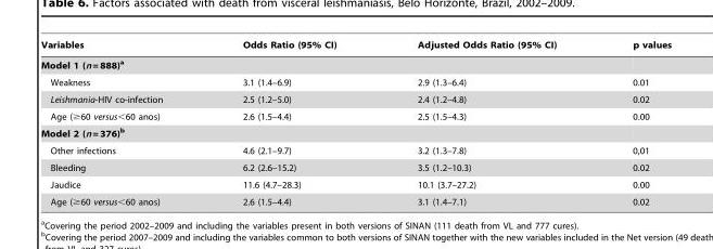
<table><thead><tr><td>Variables</td><td>Odds Ratio (95% CI)</td><td>Adjusted Odds Ratio (95% CI)</td><td>p values</td></tr></thead><tbody><tr><td colspan="4">Model 1 (n = 888)a</td></tr><tr><td>Weakness</td><td>3.1 (1.4–6.9)</td><td>2.9 (1.3–6.4)</td><td>0.01</td></tr><tr><td>Leishmania-HIV co-infection</td><td>2.5 (1.2–5.0)</td><td>2.4 (1.2–4.8)</td><td>0.02</td></tr><tr><td>Age (≥60 versus&lt;60 anos)</td><td>2.6 (1.5–4.4)</td><td>2.5 (1.5–4.3)</td><td>0.00</td></tr><tr><td colspan="4">Model 2 (n = 376)b</td></tr><tr><td>Other infections</td><td>4.6 (2.1–9.7)</td><td>3.2 (1.3–7.8)</td><td>0,01</td></tr><tr><td>Bleeding</td><td>6.2 (2.6–15.2)</td><td>3.5 (1.2–10.3)</td><td>0.02</td></tr><tr><td>Jaudice</td><td>11.6 (4.7–28.3)</td><td>10.1 (3.7–27.2)</td><td>0.00</td></tr><tr><td>Age (≥60 versus&lt;60 anos)</td><td>2.6 (1.5–4.4)</td><td>3.1 (1.4–7.1)</td><td>0.02</td></tr></tbody></table>